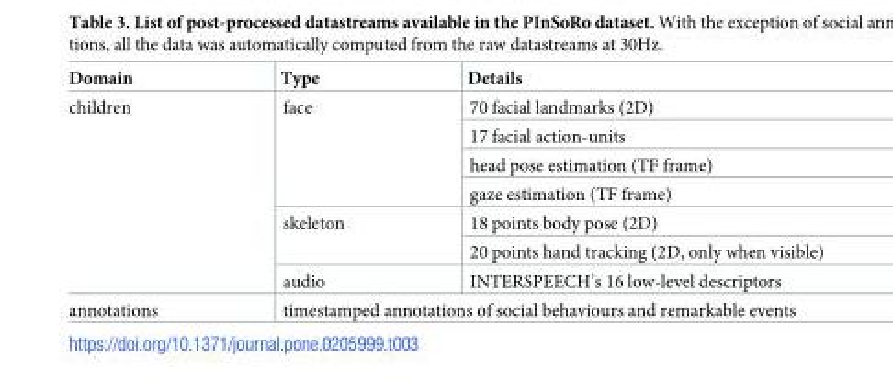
<table><thead><tr><td>Domain</td><td>Type</td><td>Details</td></tr></thead><tbody><tr><td rowspan="7">children</td><td rowspan="4">face</td><td>70 facial landmarks (2D)</td></tr><tr><td>17 facial action-units</td></tr><tr><td>head pose estimation (TF frame)</td></tr><tr><td>gaze estimation (TF frame)</td></tr><tr><td rowspan="2">skeleton</td><td>18 points body pose (2D)</td></tr><tr><td>20 points hand tracking (2D, only when visible)</td></tr><tr><td>audio</td><td>INTERSPEECH’s 16 low-level descriptors</td></tr><tr><td>annotations</td><td colspan="2">timestamped annotations of social behaviours and remarkable events</td></tr></tbody></table>